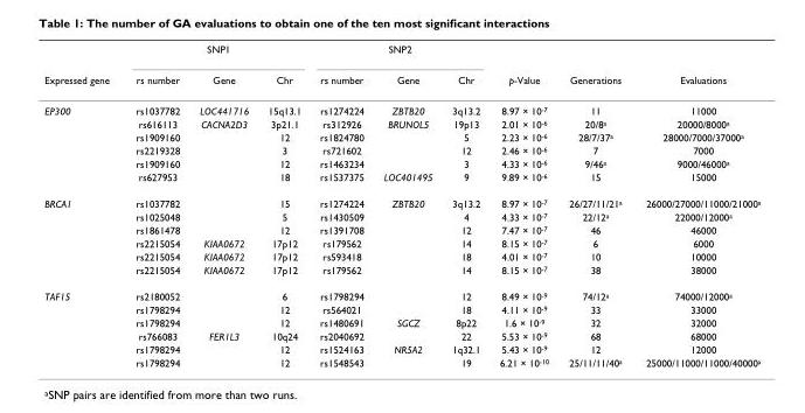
<table><thead><tr><td rowspan="2">Expressed gene</td><td colspan="3">SNP1</td><td colspan="3">SNP2</td><td rowspan="2">p-Value</td><td rowspan="2">Generations</td><td rowspan="2">Evaluations</td></tr><tr><td>rs number</td><td>Gene</td><td>Chr</td><td>rs number</td><td>Gene</td><td>Chr</td></tr></thead><tbody><tr><td rowspan="6">EP300</td><td>rs1037782</td><td>LOC441716</td><td>15q13.1</td><td>rs1274224</td><td>ZBTB20</td><td>3q13.2</td><td>8.97 × 10<sup>-7</sup></td><td>11</td><td>11000</td></tr><tr><td>rs616113</td><td>CACNA2D3</td><td>3p21.1</td><td>rs312926</td><td>BRUNOL5</td><td>19p13</td><td>2.01 × 10<sup>-6</sup></td><td>20/8<sup>a</sup></td><td>20000/8000<sup>a</sup></td></tr><tr><td>rs1909160</td><td></td><td>12</td><td>rs1824780</td><td></td><td>5</td><td>2.23 × 10<sup>-6</sup></td><td>28/7/37<sup>a</sup></td><td>28000/7000/37000<sup>a</sup></td></tr><tr><td>rs2219328</td><td></td><td>3</td><td>rs721602</td><td></td><td>12</td><td>2.46 × 10<sup>-6</sup></td><td>7</td><td>7000</td></tr><tr><td>rs1909160</td><td></td><td>12</td><td>rs1463234</td><td></td><td>3</td><td>4.33 × 10<sup>-6</sup></td><td>9/46<sup>a</sup></td><td>9000/46000<sup>a</sup></td></tr><tr><td>rs627953</td><td></td><td>18</td><td>rs1537375</td><td>LOC401495</td><td>9</td><td>9.89 × 10<sup>-6</sup></td><td>15</td><td>15000</td></tr><tr><td rowspan="6">BRCA1</td><td>rs1037782</td><td></td><td>15</td><td>rs1274224</td><td>ZBTB20</td><td>3q13.2</td><td>8.97 × 10<sup>-7</sup></td><td>26/27/11/21<sup>a</sup></td><td>26000/27000/11000/21000<sup>a</sup></td></tr><tr><td>rs1025048</td><td></td><td>5</td><td>rs1430509</td><td></td><td>4</td><td>4.33 × 10<sup>-7</sup></td><td>22/12<sup>a</sup></td><td>22000/12000<sup>a</sup></td></tr><tr><td>rs1861478</td><td></td><td>12</td><td>rs1391708</td><td></td><td>12</td><td>7.47 × 10<sup>-7</sup></td><td>46</td><td>46000</td></tr><tr><td>rs2215054</td><td>KIAA0672</td><td>17p12</td><td>rs179562</td><td></td><td>14</td><td>8.15 × 10<sup>-7</sup></td><td>6</td><td>6000</td></tr><tr><td>rs2215054</td><td>KIAA0672</td><td>17p12</td><td>rs593418</td><td></td><td>18</td><td>4.01 × 10<sup>-7</sup></td><td>10</td><td>10000</td></tr><tr><td>rs2215054</td><td>KIAA0672</td><td>17p12</td><td>rs179562</td><td></td><td>14</td><td>8.15 × 10<sup>-7</sup></td><td>38</td><td>38000</td></tr><tr><td rowspan="6">TAF15</td><td>rs2180052</td><td></td><td>6</td><td>rs1798294</td><td></td><td>12</td><td>8.49 × 10<sup>-9</sup></td><td>74/12<sup>a</sup></td><td>74000/12000<sup>a</sup></td></tr><tr><td>rs1798294</td><td></td><td>12</td><td>rs564021</td><td></td><td>18</td><td>4.11 × 10<sup>-9</sup></td><td>33</td><td>33000</td></tr><tr><td>rs1798294</td><td></td><td>12</td><td>rs1480691</td><td>SGCZ</td><td>8p22</td><td>1.6 × 10<sup>-9</sup></td><td>32</td><td>32000</td></tr><tr><td>rs766083</td><td>FER1L3</td><td>10q24</td><td>rs2040692</td><td></td><td>22</td><td>5.53 × 10<sup>-9</sup></td><td>68</td><td>68000</td></tr><tr><td>rs1798294</td><td></td><td>12</td><td>rs1524163</td><td>NR5A2</td><td>1q32.1</td><td>5.43 × 10<sup>-9</sup></td><td>12</td><td>12000</td></tr><tr><td>rs1798294</td><td></td><td>12</td><td>rs1548543</td><td></td><td>19</td><td>6.21 × 10<sup>-10</sup></td><td>25/11/11/40<sup>a</sup></td><td>25000/11000/11000/40000<sup>a</sup></td></tr></tbody></table>